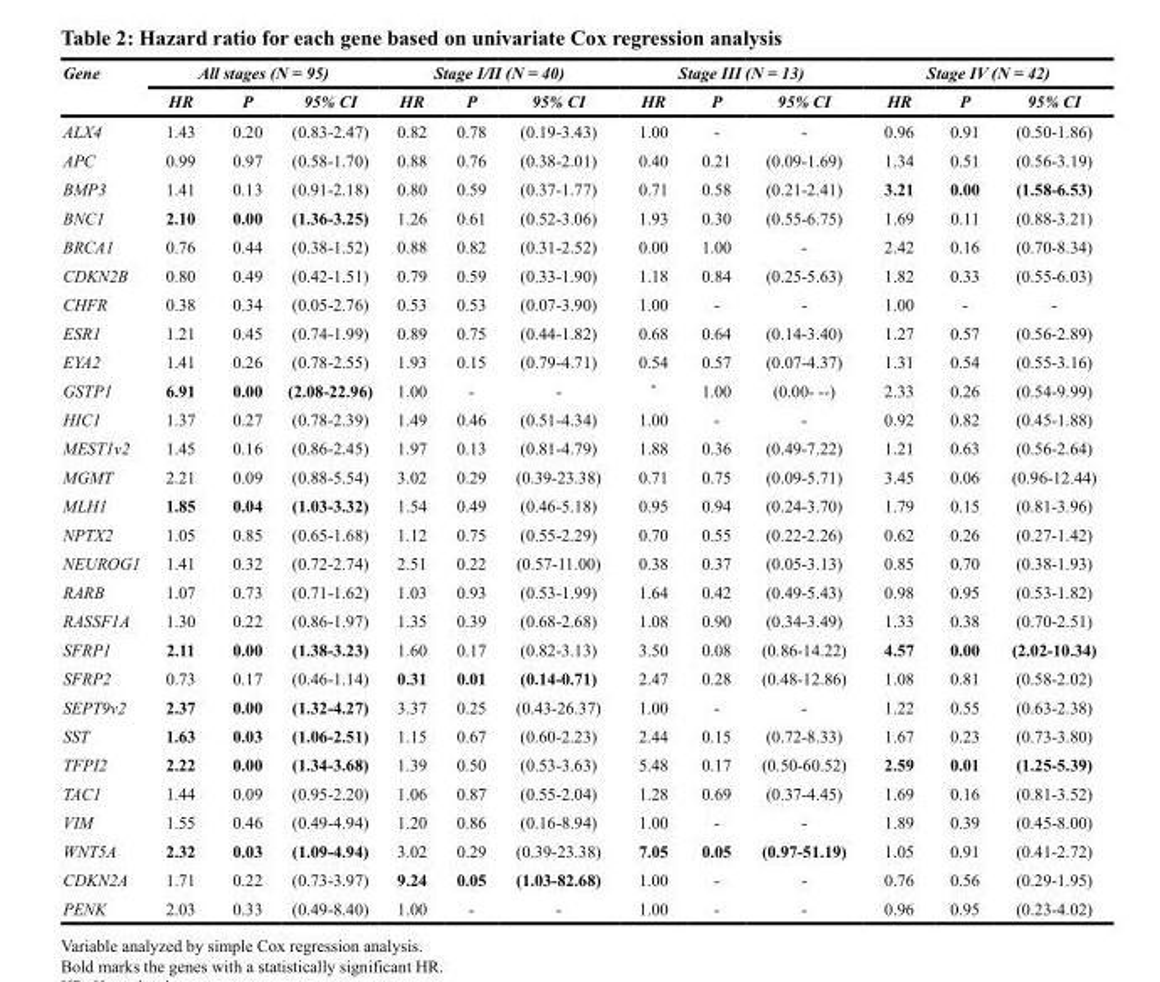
<table><thead><tr><td rowspan="2">Gene</td><td colspan="3">All stages (N = 95)</td><td colspan="3">Stage I/II (N = 40)</td><td colspan="3">Stage III (N = 13)</td><td colspan="3">Stage IV (N = 42)</td></tr><tr><td>HR</td><td>P</td><td>95% CI</td><td>HR</td><td>P</td><td>95% CI</td><td>HR</td><td>P</td><td>95% CI</td><td>HR</td><td>P</td><td>95% CI</td></tr></thead><tbody><tr><td>ALX4</td><td>1.43</td><td>0.20</td><td>(0.83-2.47)</td><td>0.82</td><td>0.78</td><td>(0.19-3.43)</td><td>1.00</td><td>-</td><td>-</td><td>0.96</td><td>0.91</td><td>(0.50-1.86)</td></tr><tr><td>APC</td><td>0.99</td><td>0.97</td><td>(0.58-1.70)</td><td>0.88</td><td>0.76</td><td>(0.38-2.01)</td><td>0.40</td><td>0.21</td><td>(0.09-1.69)</td><td>1.34</td><td>0.51</td><td>(0.56-3.19)</td></tr><tr><td>BMP3</td><td>1.41</td><td>0.13</td><td>(0.91-2.18)</td><td>0.80</td><td>0.59</td><td>(0.37-1.77)</td><td>0.71</td><td>0.58</td><td>(0.21-2.41)</td><td>3.21</td><td>0.00</td><td>(1.58-6.53)</td></tr><tr><td>BNC1</td><td>2.10</td><td>0.00</td><td>(1.36-3.25)</td><td>1.26</td><td>0.61</td><td>(0.52-3.06)</td><td>1.93</td><td>0.30</td><td>(0.55-6.75)</td><td>1.69</td><td>0.11</td><td>(0.88-3.21)</td></tr><tr><td>BRCA1</td><td>0.76</td><td>0.44</td><td>(0.38-1.52)</td><td>0.88</td><td>0.82</td><td>(0.31-2.52)</td><td>0.00</td><td>1.00</td><td>-</td><td>2.42</td><td>0.16</td><td>(0.70-8.34)</td></tr><tr><td>CDKN2B</td><td>0.80</td><td>0.49</td><td>(0.42-1.51)</td><td>0.79</td><td>0.59</td><td>(0.33-1.90)</td><td>1.18</td><td>0.84</td><td>(0.25-5.63)</td><td>1.82</td><td>0.33</td><td>(0.55-6.03)</td></tr><tr><td>CHFR</td><td>0.38</td><td>0.34</td><td>(0.05-2.76)</td><td>0.53</td><td>0.53</td><td>(0.07-3.90)</td><td>1.00</td><td>-</td><td>-</td><td>1.00</td><td>-</td><td>-</td></tr><tr><td>ESR1</td><td>1.21</td><td>0.45</td><td>(0.74-1.99)</td><td>0.89</td><td>0.75</td><td>(0.44-1.82)</td><td>0.68</td><td>0.64</td><td>(0.14-3.40)</td><td>1.27</td><td>0.57</td><td>(0.56-2.89)</td></tr><tr><td>EYA2</td><td>1.41</td><td>0.26</td><td>(0.78-2.55)</td><td>1.93</td><td>0.15</td><td>(0.79-4.71)</td><td>0.54</td><td>0.57</td><td>(0.07-4.37)</td><td>1.31</td><td>0.54</td><td>(0.55-3.16)</td></tr><tr><td>GSTP1</td><td>6.91</td><td>0.00</td><td>(2.08-22.96)</td><td>1.00</td><td>-</td><td>-</td><td>*</td><td>1.00</td><td>(0.00- --)</td><td>2.33</td><td>0.26</td><td>(0.54-9.99)</td></tr><tr><td>HIC1</td><td>1.37</td><td>0.27</td><td>(0.78-2.39)</td><td>1.49</td><td>0.46</td><td>(0.51-4.34)</td><td>1.00</td><td>-</td><td>-</td><td>0.92</td><td>0.82</td><td>(0.45-1.88)</td></tr><tr><td>MEST1v2</td><td>1.45</td><td>0.16</td><td>(0.86-2.45)</td><td>1.97</td><td>0.13</td><td>(0.81-4.79)</td><td>1.88</td><td>0.36</td><td>(0.49-7.22)</td><td>1.21</td><td>0.63</td><td>(0.56-2.64)</td></tr><tr><td>MGMT</td><td>2.21</td><td>0.09</td><td>(0.88-5.54)</td><td>3.02</td><td>0.29</td><td>(0.39-23.38)</td><td>0.71</td><td>0.75</td><td>(0.09-5.71)</td><td>3.45</td><td>0.06</td><td>(0.96-12.44)</td></tr><tr><td>MLH1</td><td>1.85</td><td>0.04</td><td>(1.03-3.32)</td><td>1.54</td><td>0.49</td><td>(0.46-5.18)</td><td>0.95</td><td>0.94</td><td>(0.24-3.70)</td><td>1.79</td><td>0.15</td><td>(0.81-3.96)</td></tr><tr><td>NPTX2</td><td>1.05</td><td>0.85</td><td>(0.65-1.68)</td><td>1.12</td><td>0.75</td><td>(0.55-2.29)</td><td>0.70</td><td>0.55</td><td>(0.22-2.26)</td><td>0.62</td><td>0.26</td><td>(0.27-1.42)</td></tr><tr><td>NEUROG1</td><td>1.41</td><td>0.32</td><td>(0.72-2.74)</td><td>2.51</td><td>0.22</td><td>(0.57-11.00)</td><td>0.38</td><td>0.37</td><td>(0.05-3.13)</td><td>0.85</td><td>0.70</td><td>(0.38-1.93)</td></tr><tr><td>RARB</td><td>1.07</td><td>0.73</td><td>(0.71-1.62)</td><td>1.03</td><td>0.93</td><td>(0.53-1.99)</td><td>1.64</td><td>0.42</td><td>(0.49-5.43)</td><td>0.98</td><td>0.95</td><td>(0.53-1.82)</td></tr><tr><td>RASSF1A</td><td>1.30</td><td>0.22</td><td>(0.86-1.97)</td><td>1.35</td><td>0.39</td><td>(0.68-2.68)</td><td>1.08</td><td>0.90</td><td>(0.34-3.49)</td><td>1.33</td><td>0.38</td><td>(0.70-2.51)</td></tr><tr><td>SFRP1</td><td>2.11</td><td>0.00</td><td>(1.38-3.23)</td><td>1.60</td><td>0.17</td><td>(0.82-3.13)</td><td>3.50</td><td>0.08</td><td>(0.86-14.22)</td><td>4.57</td><td>0.00</td><td>(2.02-10.34)</td></tr><tr><td>SFRP2</td><td>0.73</td><td>0.17</td><td>(0.46-1.14)</td><td>0.31</td><td>0.01</td><td>(0.14-0.71)</td><td>2.47</td><td>0.28</td><td>(0.48-12.86)</td><td>1.08</td><td>0.81</td><td>(0.58-2.02)</td></tr><tr><td>SEPT9v2</td><td>2.37</td><td>0.00</td><td>(1.32-4.27)</td><td>3.37</td><td>0.25</td><td>(0.43-26.37)</td><td>1.00</td><td>-</td><td>-</td><td>1.22</td><td>0.55</td><td>(0.63-2.38)</td></tr><tr><td>SST</td><td>1.63</td><td>0.03</td><td>(1.06-2.51)</td><td>1.15</td><td>0.67</td><td>(0.60-2.23)</td><td>2.44</td><td>0.15</td><td>(0.72-8.33)</td><td>1.67</td><td>0.23</td><td>(0.73-3.80)</td></tr><tr><td>TFPI2</td><td>2.22</td><td>0.00</td><td>(1.34-3.68)</td><td>1.39</td><td>0.50</td><td>(0.53-3.63)</td><td>5.48</td><td>0.17</td><td>(0.50-60.52)</td><td>2.59</td><td>0.01</td><td>(1.25-5.39)</td></tr><tr><td>TAC1</td><td>1.44</td><td>0.09</td><td>(0.95-2.20)</td><td>1.06</td><td>0.87</td><td>(0.55-2.04)</td><td>1.28</td><td>0.69</td><td>(0.37-4.45)</td><td>1.69</td><td>0.16</td><td>(0.81-3.52)</td></tr><tr><td>VIM</td><td>1.55</td><td>0.46</td><td>(0.49-4.94)</td><td>1.20</td><td>0.86</td><td>(0.16-8.94)</td><td>1.00</td><td>-</td><td>-</td><td>1.89</td><td>0.39</td><td>(0.45-8.00)</td></tr><tr><td>WNT5A</td><td>2.32</td><td>0.03</td><td>(1.09-4.94)</td><td>3.02</td><td>0.29</td><td>(0.39-23.38)</td><td>7.05</td><td>0.05</td><td>(0.97-51.19)</td><td>1.05</td><td>0.91</td><td>(0.41-2.72)</td></tr><tr><td>CDKN2A</td><td>1.71</td><td>0.22</td><td>(0.73-3.97)</td><td>9.24</td><td>0.05</td><td>(1.03-82.68)</td><td>1.00</td><td>-</td><td>-</td><td>0.76</td><td>0.56</td><td>(0.29-1.95)</td></tr><tr><td>PENK</td><td>2.03</td><td>0.33</td><td>(0.49-8.40)</td><td>1.00</td><td>-</td><td>-</td><td>1.00</td><td>-</td><td>-</td><td>0.96</td><td>0.95</td><td>(0.23-4.02)</td></tr></tbody></table>